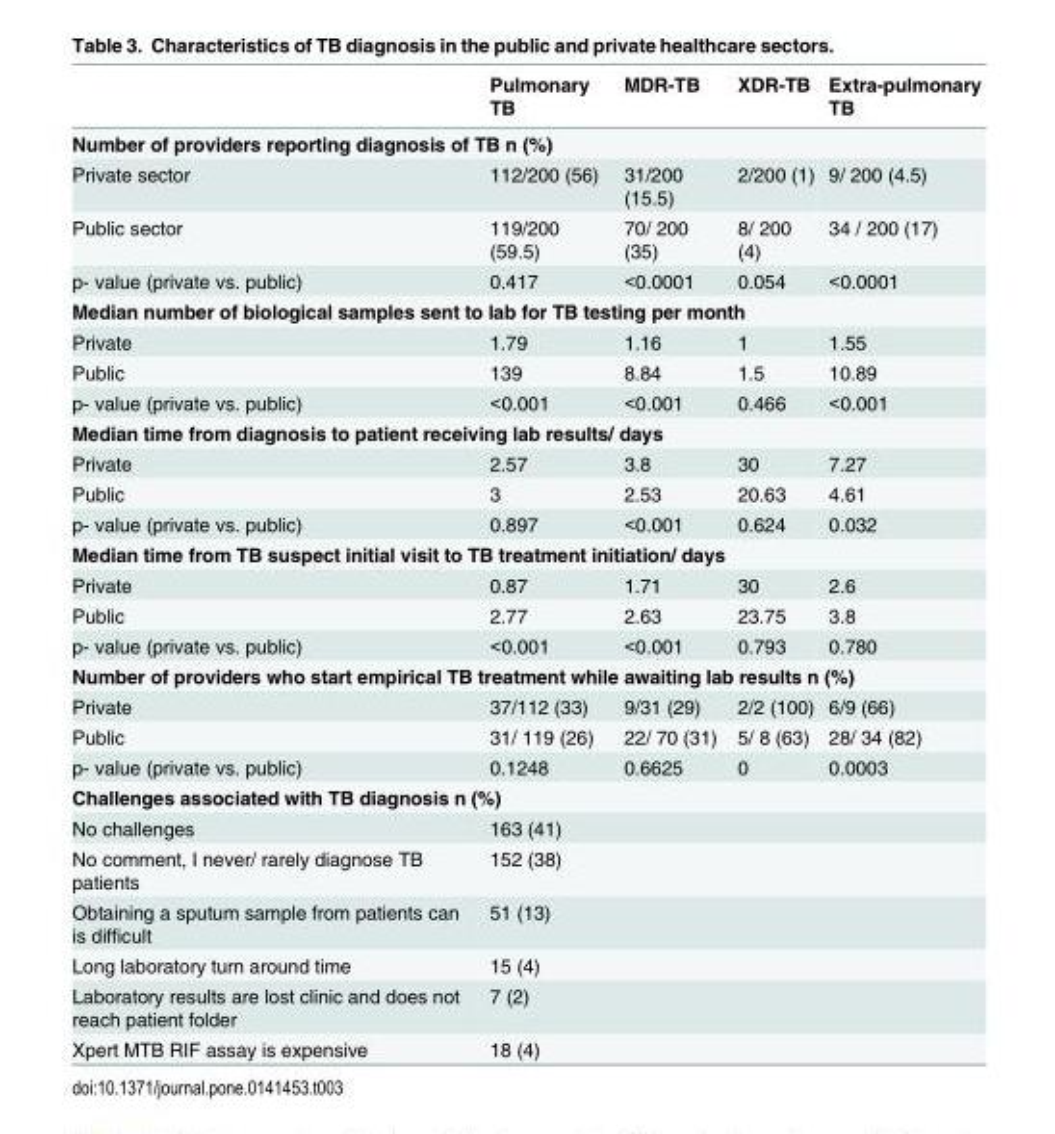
<table><thead><tr><td></td><td>Pulmonary TB</td><td>MDR-TB</td><td>XDR-TB</td><td>Extra-pulmonary TB</td></tr></thead><tbody><tr><td colspan="5">Number of providers reporting diagnosis of TB n (%)</td></tr><tr><td>Private sector</td><td>112/200 (56)</td><td>31/200 (15.5)</td><td>2/200 (1)</td><td>9/ 200 (4.5)</td></tr><tr><td>Public sector</td><td>119/200 (59.5)</td><td>70/ 200 (35)</td><td>8/ 200 (4)</td><td>34 / 200 (17)</td></tr><tr><td>p- value (private vs. public)</td><td>0.417</td><td>&lt;0.0001</td><td>0.054</td><td>&lt;0.0001</td></tr><tr><td colspan="5">Median number of biological samples sent to lab for TB testing per month</td></tr><tr><td>Private</td><td>1.79</td><td>1.16</td><td>1</td><td>1.55</td></tr><tr><td>Public</td><td>139</td><td>8.84</td><td>1.5</td><td>10.89</td></tr><tr><td>p- value (private vs. public)</td><td>&lt;0.001</td><td>&lt;0.001</td><td>0.466</td><td>&lt;0.001</td></tr><tr><td colspan="5">Median time from diagnosis to patient receiving lab results/ days</td></tr><tr><td>Private</td><td>2.57</td><td>3.8</td><td>30</td><td>7.27</td></tr><tr><td>Public</td><td>3</td><td>2.53</td><td>20.63</td><td>4.61</td></tr><tr><td>p- value (private vs. public)</td><td>0.897</td><td>&lt;0.001</td><td>0.624</td><td>0.032</td></tr><tr><td colspan="5">Median time from TB suspect initial visit to TB treatment initiation/ days</td></tr><tr><td>Private</td><td>0.87</td><td>1.71</td><td>30</td><td>2.6</td></tr><tr><td>Public</td><td>2.77</td><td>2.63</td><td>23.75</td><td>3.8</td></tr><tr><td>p- value (private vs. public)</td><td>&lt;0.001</td><td>&lt;0.001</td><td>0.793</td><td>0.780</td></tr><tr><td colspan="5">Number of providers who start empirical TB treatment while awaiting lab results n (%)</td></tr><tr><td>Private</td><td>37/112 (33)</td><td>9/31 (29)</td><td>2/2 (100)</td><td>6/9 (66)</td></tr><tr><td>Public</td><td>31/ 119 (26)</td><td>22/ 70 (31)</td><td>5/ 8 (63)</td><td>28/ 34 (82)</td></tr><tr><td>p- value (private vs. public)</td><td>0.1248</td><td>0.6625</td><td>0</td><td>0.0003</td></tr><tr><td colspan="5">Challenges associated with TB diagnosis n (%)</td></tr><tr><td>No challenges</td><td colspan="4">163 (41)</td></tr><tr><td>No comment, I never/ rarely diagnose TB patients</td><td colspan="4">152 (38)</td></tr><tr><td>Obtaining a sputum sample from patients can is difficult</td><td colspan="4">51 (13)</td></tr><tr><td>Long laboratory turn around time</td><td colspan="4">15 (4)</td></tr><tr><td>Laboratory results are lost clinic and does not reach patient folder</td><td colspan="4">7 (2)</td></tr><tr><td>Xpert MTB RIF assay is expensive</td><td colspan="4">18 (4)</td></tr></tbody></table>